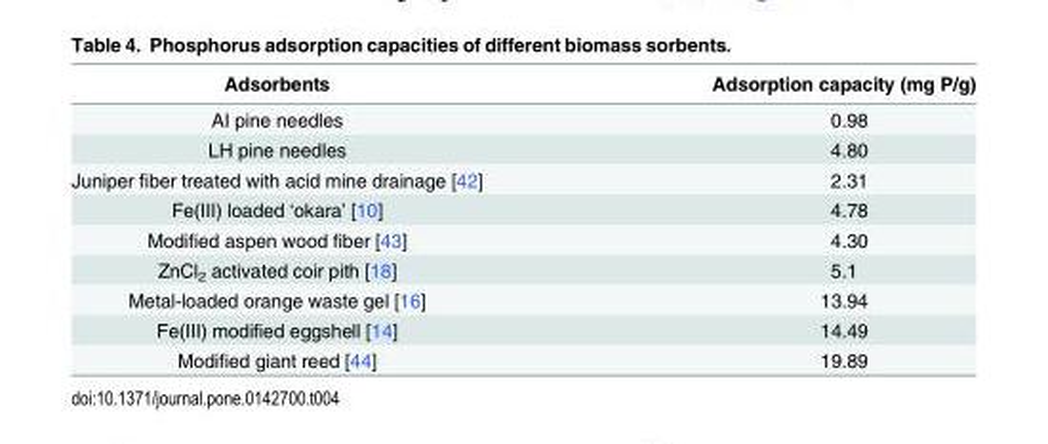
<table><thead><tr><td>Adsorbents</td><td>Adsorption capacity (mg P/g)</td></tr></thead><tbody><tr><td>AI pine needles</td><td>0.98</td></tr><tr><td>LH pine needles</td><td>4.80</td></tr><tr><td>Juniper fiber treated with acid mine drainage [42]</td><td>2.31</td></tr><tr><td>Fe(III) loaded ‘okara’ [10]</td><td>4.78</td></tr><tr><td>Modified aspen wood fiber [43]</td><td>4.30</td></tr><tr><td>ZnCl<sub>2</sub> activated coir pith [18]</td><td>5.1</td></tr><tr><td>Metal-loaded orange waste gel [16]</td><td>13.94</td></tr><tr><td>Fe(III) modified eggshell [14]</td><td>14.49</td></tr><tr><td>Modified giant reed [44]</td><td>19.89</td></tr></tbody></table>